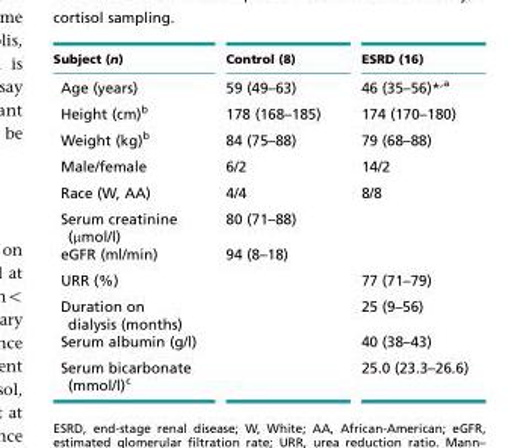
<table><thead><tr><td>Subject (n)</td><td>Control (8)</td><td>ESRD (16)</td></tr></thead><tbody><tr><td>Age (years)</td><td>59 (49–63)</td><td>46 (35–56)*,a</td></tr><tr><td>Height (cm)<sup>b</sup></td><td>178 (168–185)</td><td>174 (170–180)</td></tr><tr><td>Weight (kg)<sup>b</sup></td><td>84 (75–88)</td><td>79 (68–88)</td></tr><tr><td>Male/female</td><td>6/2</td><td>14/2</td></tr><tr><td>Race (W, AA)</td><td>4/4</td><td>8/8</td></tr><tr><td>Serum creatinine (μmol/l)</td><td>80 (71–88)</td><td></td></tr><tr><td>eGFR (ml/min)</td><td>94 (8–18)</td><td></td></tr><tr><td>URR (%)</td><td></td><td>77 (71–79)</td></tr><tr><td>Duration on dialysis (months)</td><td></td><td>25 (9–56)</td></tr><tr><td>Serum albumin (g/l)</td><td></td><td>40 (38–43)</td></tr><tr><td>Serum bicarbonate (mmol/l)<sup>c</sup></td><td></td><td>25.0 (23.3–26.6)</td></tr></tbody></table>